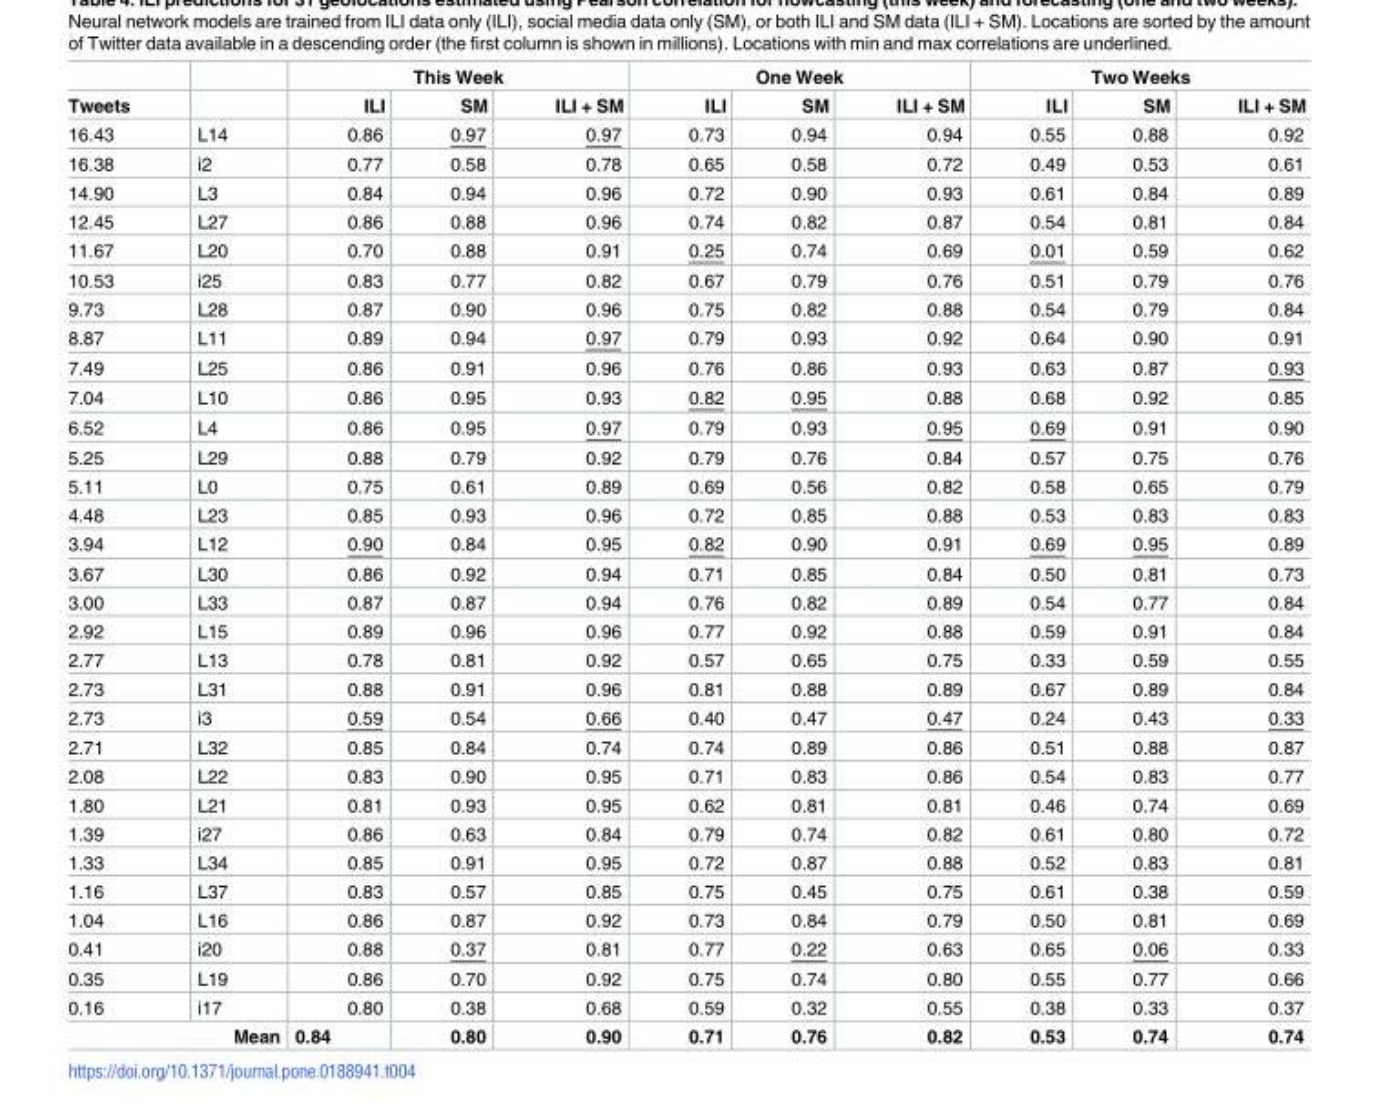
<table><thead><tr><td rowspan="2">Tweets</td><td rowspan="2"></td><td colspan="3">This Week</td><td colspan="3">One Week</td><td colspan="3">Two Weeks</td></tr><tr><td>ILI</td><td>SM</td><td>ILI + SM</td><td>ILI</td><td>SM</td><td>ILI + SM</td><td>ILI</td><td>SM</td><td>ILI + SM</td></tr></thead><tbody><tr><td>16.43</td><td>L14</td><td>0.86</td><td>0.97</td><td>0.97</td><td>0.73</td><td>0.94</td><td>0.94</td><td>0.55</td><td>0.88</td><td>0.92</td></tr><tr><td>16.38</td><td>i2</td><td>0.77</td><td>0.58</td><td>0.78</td><td>0.65</td><td>0.58</td><td>0.72</td><td>0.49</td><td>0.53</td><td>0.61</td></tr><tr><td>14.90</td><td>L3</td><td>0.84</td><td>0.94</td><td>0.96</td><td>0.72</td><td>0.90</td><td>0.93</td><td>0.61</td><td>0.84</td><td>0.89</td></tr><tr><td>12.45</td><td>L27</td><td>0.86</td><td>0.88</td><td>0.96</td><td>0.74</td><td>0.82</td><td>0.87</td><td>0.54</td><td>0.81</td><td>0.84</td></tr><tr><td>11.67</td><td>L20</td><td>0.70</td><td>0.88</td><td>0.91</td><td>0.25</td><td>0.74</td><td>0.69</td><td>0.01</td><td>0.59</td><td>0.62</td></tr><tr><td>10.53</td><td>i25</td><td>0.83</td><td>0.77</td><td>0.82</td><td>0.67</td><td>0.79</td><td>0.76</td><td>0.51</td><td>0.79</td><td>0.76</td></tr><tr><td>9.73</td><td>L28</td><td>0.87</td><td>0.90</td><td>0.96</td><td>0.75</td><td>0.82</td><td>0.88</td><td>0.54</td><td>0.79</td><td>0.84</td></tr><tr><td>8.87</td><td>L11</td><td>0.89</td><td>0.94</td><td>0.97</td><td>0.79</td><td>0.93</td><td>0.92</td><td>0.64</td><td>0.90</td><td>0.91</td></tr><tr><td>7.49</td><td>L25</td><td>0.86</td><td>0.91</td><td>0.96</td><td>0.76</td><td>0.86</td><td>0.93</td><td>0.63</td><td>0.87</td><td>0.93</td></tr><tr><td>7.04</td><td>L10</td><td>0.86</td><td>0.95</td><td>0.93</td><td>0.82</td><td>0.95</td><td>0.88</td><td>0.68</td><td>0.92</td><td>0.85</td></tr><tr><td>6.52</td><td>L4</td><td>0.86</td><td>0.95</td><td>0.97</td><td>0.79</td><td>0.93</td><td>0.95</td><td>0.69</td><td>0.91</td><td>0.90</td></tr><tr><td>5.25</td><td>L29</td><td>0.88</td><td>0.79</td><td>0.92</td><td>0.79</td><td>0.76</td><td>0.84</td><td>0.57</td><td>0.75</td><td>0.76</td></tr><tr><td>5.11</td><td>L0</td><td>0.75</td><td>0.61</td><td>0.89</td><td>0.69</td><td>0.56</td><td>0.82</td><td>0.58</td><td>0.65</td><td>0.79</td></tr><tr><td>4.48</td><td>L23</td><td>0.85</td><td>0.93</td><td>0.96</td><td>0.72</td><td>0.85</td><td>0.88</td><td>0.53</td><td>0.83</td><td>0.83</td></tr><tr><td>3.94</td><td>L12</td><td>0.90</td><td>0.84</td><td>0.95</td><td>0.82</td><td>0.90</td><td>0.91</td><td>0.69</td><td>0.95</td><td>0.89</td></tr><tr><td>3.67</td><td>L30</td><td>0.86</td><td>0.92</td><td>0.94</td><td>0.71</td><td>0.85</td><td>0.84</td><td>0.50</td><td>0.81</td><td>0.73</td></tr><tr><td>3.00</td><td>L33</td><td>0.87</td><td>0.87</td><td>0.94</td><td>0.76</td><td>0.82</td><td>0.89</td><td>0.54</td><td>0.77</td><td>0.84</td></tr><tr><td>2.92</td><td>L15</td><td>0.89</td><td>0.96</td><td>0.96</td><td>0.77</td><td>0.92</td><td>0.88</td><td>0.59</td><td>0.91</td><td>0.84</td></tr><tr><td>2.77</td><td>L13</td><td>0.78</td><td>0.81</td><td>0.92</td><td>0.57</td><td>0.65</td><td>0.75</td><td>0.33</td><td>0.59</td><td>0.55</td></tr><tr><td>2.73</td><td>L31</td><td>0.88</td><td>0.91</td><td>0.96</td><td>0.81</td><td>0.88</td><td>0.89</td><td>0.67</td><td>0.89</td><td>0.84</td></tr><tr><td>2.73</td><td>i3</td><td>0.59</td><td>0.54</td><td>0.66</td><td>0.40</td><td>0.47</td><td>0.47</td><td>0.24</td><td>0.43</td><td>0.33</td></tr><tr><td>2.71</td><td>L32</td><td>0.85</td><td>0.84</td><td>0.74</td><td>0.74</td><td>0.89</td><td>0.86</td><td>0.51</td><td>0.88</td><td>0.87</td></tr><tr><td>2.08</td><td>L22</td><td>0.83</td><td>0.90</td><td>0.95</td><td>0.71</td><td>0.83</td><td>0.86</td><td>0.54</td><td>0.83</td><td>0.77</td></tr><tr><td>1.80</td><td>L21</td><td>0.81</td><td>0.93</td><td>0.95</td><td>0.62</td><td>0.81</td><td>0.81</td><td>0.46</td><td>0.74</td><td>0.69</td></tr><tr><td>1.39</td><td>i27</td><td>0.86</td><td>0.63</td><td>0.84</td><td>0.79</td><td>0.74</td><td>0.82</td><td>0.61</td><td>0.80</td><td>0.72</td></tr><tr><td>1.33</td><td>L34</td><td>0.85</td><td>0.91</td><td>0.95</td><td>0.72</td><td>0.87</td><td>0.88</td><td>0.52</td><td>0.83</td><td>0.81</td></tr><tr><td>1.16</td><td>L37</td><td>0.83</td><td>0.57</td><td>0.85</td><td>0.75</td><td>0.45</td><td>0.75</td><td>0.61</td><td>0.38</td><td>0.59</td></tr><tr><td>1.04</td><td>L16</td><td>0.86</td><td>0.87</td><td>0.92</td><td>0.73</td><td>0.84</td><td>0.79</td><td>0.50</td><td>0.81</td><td>0.69</td></tr><tr><td>0.41</td><td>i20</td><td>0.88</td><td>0.37</td><td>0.81</td><td>0.77</td><td>0.22</td><td>0.63</td><td>0.65</td><td>0.06</td><td>0.33</td></tr><tr><td>0.35</td><td>L19</td><td>0.86</td><td>0.70</td><td>0.92</td><td>0.75</td><td>0.74</td><td>0.80</td><td>0.55</td><td>0.77</td><td>0.66</td></tr><tr><td>0.16</td><td>i17</td><td>0.80</td><td>0.38</td><td>0.68</td><td>0.59</td><td>0.32</td><td>0.55</td><td>0.38</td><td>0.33</td><td>0.37</td></tr><tr><td colspan="2">Mean</td><td>0.84</td><td>0.80</td><td>0.90</td><td>0.71</td><td>0.76</td><td>0.82</td><td>0.53</td><td>0.74</td><td>0.74</td></tr></tbody></table>